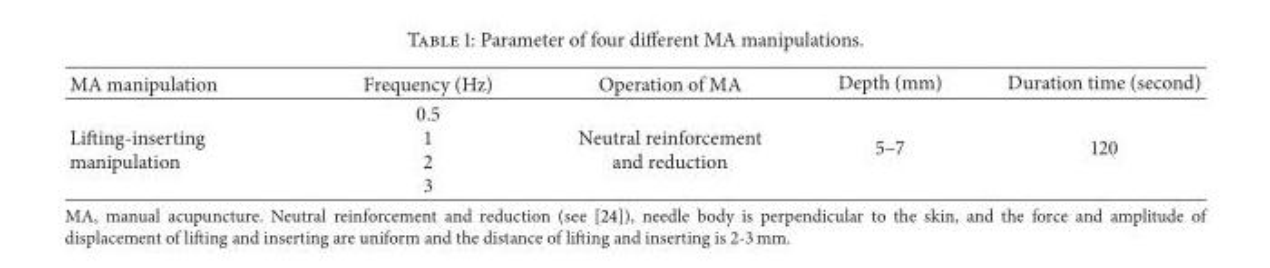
<table><thead><tr><td>MA manipulation</td><td>Frequency (Hz)</td><td>Operation of MA</td><td>Depth (mm)</td><td>Duration time (second)</td></tr></thead><tbody><tr><td>Lifting-inserting manipulation</td><td>0.5 1 2 3</td><td>Neutral reinforcement and reduction</td><td>5–7</td><td>120</td></tr></tbody></table>